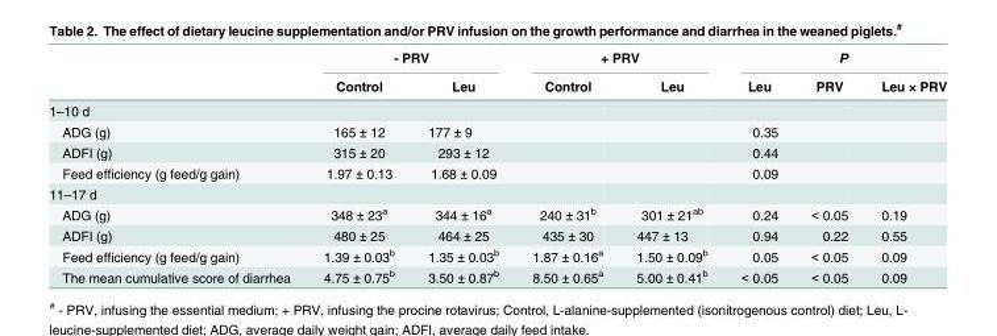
<table><thead><tr><td rowspan="2"></td><td colspan="2">- PRV</td><td colspan="2">+ PRV</td><td colspan="3">P</td></tr><tr><td>Control</td><td>Leu</td><td>Control</td><td>Leu</td><td>Leu</td><td>PRV</td><td>Leu × PRV</td></tr></thead><tbody><tr><td colspan="8">1–10 d</td></tr><tr><td>ADG (g)</td><td>165 ± 12</td><td>177 ± 9</td><td></td><td></td><td>0.35</td><td></td><td></td></tr><tr><td>ADFI (g)</td><td>315 ± 20</td><td>293 ± 12</td><td></td><td></td><td>0.44</td><td></td><td></td></tr><tr><td>Feed efficiency (g feed/g gain)</td><td>1.97 ± 0.13</td><td>1.68 ± 0.09</td><td></td><td></td><td>0.09</td><td></td><td></td></tr><tr><td colspan="8">11–17 d</td></tr><tr><td>ADG (g)</td><td>348 ± 23<sup>a</sup></td><td>344 ± 16<sup>a</sup></td><td>240 ± 31<sup>b</sup></td><td>301 ± 21<sup>ab</sup></td><td>0.24</td><td>&lt; 0.05</td><td>0.19</td></tr><tr><td>ADFI (g)</td><td>480 ± 25</td><td>464 ± 25</td><td>435 ± 30</td><td>447 ± 13</td><td>0.94</td><td>0.22</td><td>0.55</td></tr><tr><td>Feed efficiency (g feed/g gain)</td><td>1.39 ± 0.03<sup>b</sup></td><td>1.35 ± 0.03<sup>b</sup></td><td>1.87 ± 0.16<sup>a</sup></td><td>1.50 ± 0.09<sup>b</sup></td><td>0.05</td><td>&lt; 0.05</td><td>0.09</td></tr><tr><td>The mean cumulative score of diarrhea</td><td>4.75 ± 0.75<sup>b</sup></td><td>3.50 ± 0.87<sup>b</sup></td><td>8.50 ± 0.65<sup>a</sup></td><td>5.00 ± 0.41<sup>b</sup></td><td>&lt; 0.05</td><td>&lt; 0.05</td><td>0.09</td></tr></tbody></table>